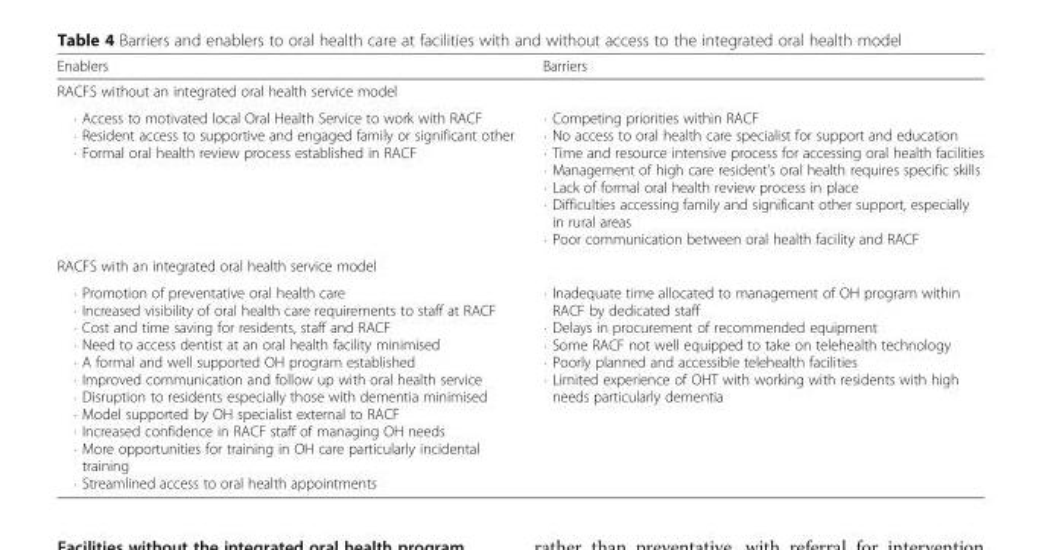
<table><thead><tr><td>Enablers</td><td>Barriers</td></tr></thead><tbody><tr><td colspan="2">RACFS without an integrated oral health service model</td></tr><tr><td>⋅ Access to motivated local Oral Health Service to work with RACF ⋅ Resident access to supportive and engaged family or significant other ⋅ Formal oral health review process established in RACF</td><td>⋅ Competing priorities within RACF ⋅ No access to oral health care specialist for support and education ⋅ Time and resource intensive process for accessing oral health facilities ⋅ Management of high care resident’s oral health requires specific skills ⋅ Lack of formal oral health review process in place ⋅ Difficulties accessing family and significant other support, especially in rural areas ⋅ Poor communication between oral health facility and RACF</td></tr><tr><td colspan="2">RACFS with an integrated oral health service model</td></tr><tr><td>⋅ Promotion of preventative oral health care ⋅ Increased visibility of oral health care requirements to staff at RACF ⋅ Cost and time saving for residents, staff and RACF ⋅ Need to access dentist at an oral health facility minimised ⋅ A formal and well supported OH program established ⋅ Improved communication and follow up with oral health service ⋅ Disruption to residents especially those with dementia minimised ⋅ Model supported by OH specialist external to RACF ⋅ Increased confidence in RACF staff of managing OH needs ⋅ More opportunities for training in OH care particularly incidental training ⋅ Streamlined access to oral health appointments</td><td>⋅ Inadequate time allocated to management of OH program within RACF by dedicated staff ⋅ Delays in procurement of recommended equipment ⋅ Some RACF not well equipped to take on telehealth technology ⋅ Poorly planned and accessible telehealth facilities ⋅ Limited experience of OHT with working with residents with high needs particularly dementia</td></tr></tbody></table>